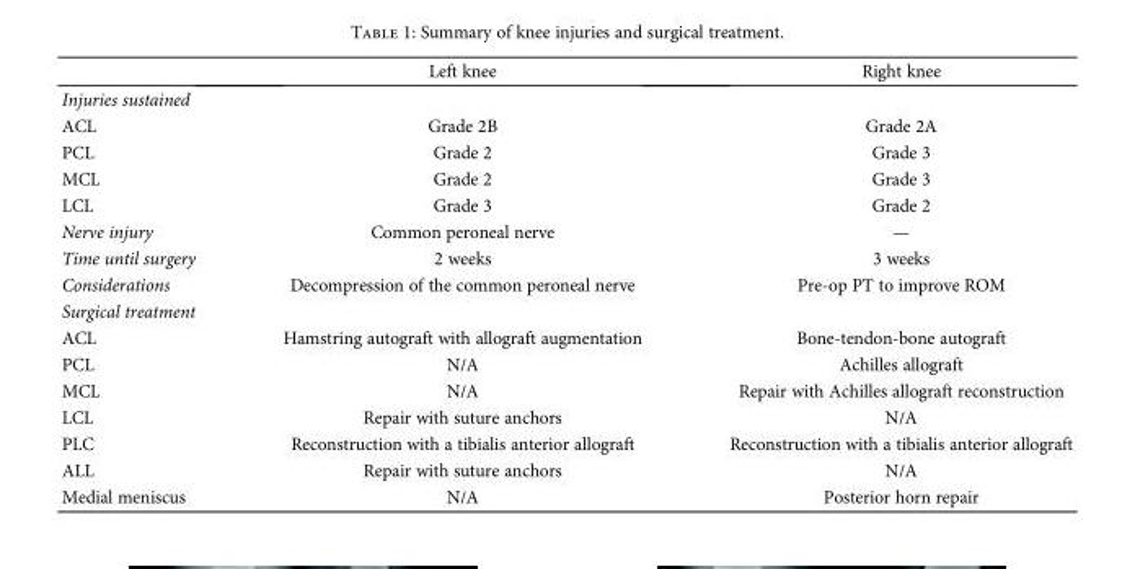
<table><thead><tr><td></td><td>Left knee</td><td>Right knee</td></tr></thead><tbody><tr><td colspan="3">Injuries sustained</td></tr><tr><td>ACL</td><td>Grade 2B</td><td>Grade 2A</td></tr><tr><td>PCL</td><td>Grade 2</td><td>Grade 3</td></tr><tr><td>MCL</td><td>Grade 2</td><td>Grade 3</td></tr><tr><td>LCL</td><td>Grade 3</td><td>Grade 2</td></tr><tr><td>Nerve injury</td><td>Common peroneal nerve</td><td>—</td></tr><tr><td>Time until surgery</td><td>2 weeks</td><td>3 weeks</td></tr><tr><td>Considerations</td><td>Decompression of the common peroneal nerve</td><td>Pre-op PT to improve ROM</td></tr><tr><td colspan="3">Surgical treatment</td></tr><tr><td>ACL</td><td>Hamstring autograft with allograft augmentation</td><td>Bone-tendon-bone autograft</td></tr><tr><td>PCL</td><td>N/A</td><td>Achilles allograft</td></tr><tr><td>MCL</td><td>N/A</td><td>Repair with Achilles allograft reconstruction</td></tr><tr><td>LCL</td><td>Repair with suture anchors</td><td>N/A</td></tr><tr><td>PLC</td><td>Reconstruction with a tibialis anterior allograft</td><td>Reconstruction with a tibialis anterior allograft</td></tr><tr><td>ALL</td><td>Repair with suture anchors</td><td>N/A</td></tr><tr><td>Medial meniscus</td><td>N/A</td><td>Posterior horn repair</td></tr></tbody></table>